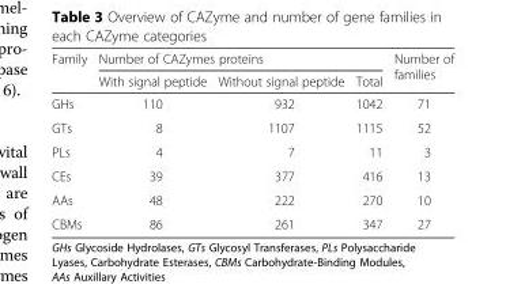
<table><thead><tr><td rowspan="2">Family</td><td colspan="3">Number of CAZymes proteins</td><td rowspan="2">Number of families</td></tr><tr><td>With signal peptide</td><td>Without signal peptide</td><td>Total</td></tr></thead><tbody><tr><td>GHs</td><td>110</td><td>932</td><td>1042</td><td>71</td></tr><tr><td>GTs</td><td>8</td><td>1107</td><td>1115</td><td>52</td></tr><tr><td>PLs</td><td>4</td><td>7</td><td>11</td><td>3</td></tr><tr><td>CEs</td><td>39</td><td>377</td><td>416</td><td>13</td></tr><tr><td>AAs</td><td>48</td><td>222</td><td>270</td><td>10</td></tr><tr><td>CBMs</td><td>86</td><td>261</td><td>347</td><td>27</td></tr></tbody></table>